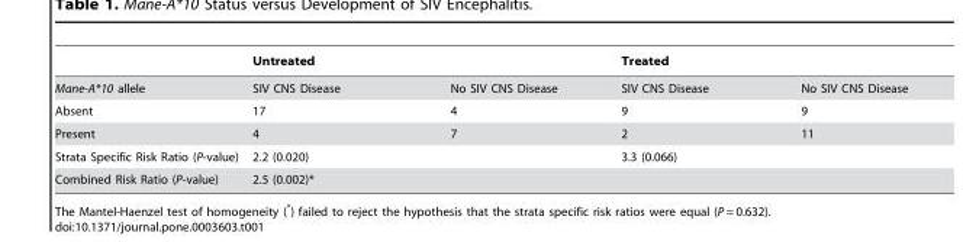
<table><thead><tr><td rowspan="2">Mane-A*10 allele</td><td colspan="2">Untreated</td><td colspan="2">Treated</td></tr><tr><td>SIV CNS Disease</td><td>No SIV CNS Disease</td><td>SIV CNS Disease</td><td>No SIV CNS Disease</td></tr></thead><tbody><tr><td>Absent</td><td>17</td><td>4</td><td>9</td><td>9</td></tr><tr><td>Present</td><td>4</td><td>7</td><td>2</td><td>11</td></tr><tr><td>Strata Specific Risk Ratio (P-value)</td><td colspan="2">2.2 (0.020)</td><td colspan="2">3.3 (0.066)</td></tr><tr><td>Combined Risk Ratio (P-value)</td><td colspan="4">2.5 (0.002)*</td></tr></tbody></table>